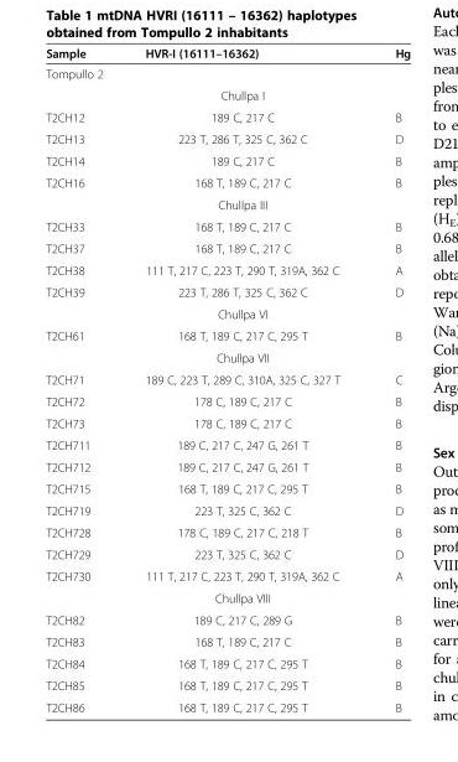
<table><thead><tr><td>Sample</td><td>HVR-I (16111–16362)</td><td>Hg</td></tr></thead><tbody><tr><td colspan="3">Tompullo 2</td></tr><tr><td></td><td>Chullpa I</td><td></td></tr><tr><td>T2CH12</td><td>189 C, 217 C</td><td>B</td></tr><tr><td>T2CH13</td><td>223 T, 286 T, 325 C, 362 C</td><td>D</td></tr><tr><td>T2CH14</td><td>189 C, 217 C</td><td>B</td></tr><tr><td rowspan="2">T2CH16</td><td>168 T, 189 C, 217 C</td><td>B</td></tr><tr><td>Chullpa III</td><td></td></tr><tr><td>T2CH33</td><td>168 T, 189 C, 217 C</td><td>B</td></tr><tr><td>T2CH37</td><td>168 T, 189 C, 217 C</td><td>B</td></tr><tr><td>T2CH38</td><td>111 T, 217 C, 223 T, 290 T, 319A, 362 C</td><td>A</td></tr><tr><td rowspan="2">T2CH39</td><td>223 T, 286 T, 325 C, 362 C</td><td>D</td></tr><tr><td>Chullpa VI</td><td></td></tr><tr><td rowspan="2">T2CH61</td><td>168 T, 189 C, 217 C, 295 T</td><td>B</td></tr><tr><td>Chullpa VII</td><td></td></tr><tr><td>T2CH71</td><td>189 C, 223 T, 289 C, 310A, 325 C, 327 T</td><td>C</td></tr><tr><td>T2CH72</td><td>178 C, 189 C, 217 C</td><td>B</td></tr><tr><td>T2CH73</td><td>178 C, 189 C, 217 C</td><td>B</td></tr><tr><td>T2CH711</td><td>189 C, 217 C, 247 G, 261 T</td><td>B</td></tr><tr><td>T2CH712</td><td>189 C, 217 C, 247 G, 261 T</td><td>B</td></tr><tr><td>T2CH715</td><td>168 T, 189 C, 217 C, 295 T</td><td>B</td></tr><tr><td>T2CH719</td><td>223 T, 325 C, 362 C</td><td>D</td></tr><tr><td>T2CH728</td><td>178 C, 189 C, 217 C, 218 T</td><td>B</td></tr><tr><td>T2CH729</td><td>223 T, 325 C, 362 C</td><td>D</td></tr><tr><td rowspan="2">T2CH730</td><td>111 T, 217 C, 223 T, 290 T, 319A, 362 C</td><td>A</td></tr><tr><td>Chullpa VIII</td><td></td></tr><tr><td>T2CH82</td><td>189 C, 217 C, 289 G</td><td>B</td></tr><tr><td>T2CH83</td><td>168 T, 189 C, 217 C</td><td>B</td></tr><tr><td>T2CH84</td><td>168 T, 189 C, 217 C, 295 T</td><td>B</td></tr><tr><td>T2CH85</td><td>168 T, 189 C, 217 C, 295 T</td><td>B</td></tr><tr><td>T2CH86</td><td>168 T, 189 C, 217 C, 295 T</td><td>B</td></tr></tbody></table>